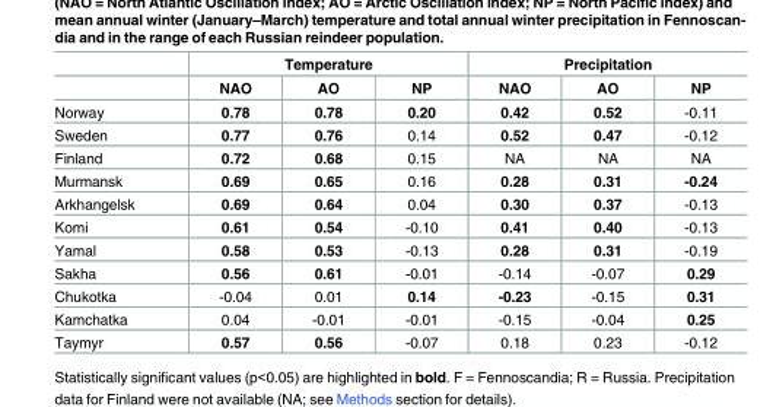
<table><thead><tr><td rowspan="2"></td><td colspan="3">Temperature</td><td colspan="3">Precipitation</td></tr><tr><td>NAO</td><td>AO</td><td>NP</td><td>NAO</td><td>AO</td><td>NP</td></tr></thead><tbody><tr><td>Norway</td><td>0.78</td><td>0.78</td><td>0.20</td><td>0.42</td><td>0.52</td><td>-0.11</td></tr><tr><td>Sweden</td><td>0.77</td><td>0.76</td><td>0.14</td><td>0.52</td><td>0.47</td><td>-0.12</td></tr><tr><td>Finland</td><td>0.72</td><td>0.68</td><td>0.15</td><td>NA</td><td>NA</td><td>NA</td></tr><tr><td>Murmansk</td><td>0.69</td><td>0.65</td><td>0.16</td><td>0.28</td><td>0.31</td><td>-0.24</td></tr><tr><td>Arkhangelsk</td><td>0.69</td><td>0.64</td><td>0.04</td><td>0.30</td><td>0.37</td><td>-0.13</td></tr><tr><td>Komi</td><td>0.61</td><td>0.54</td><td>-0.10</td><td>0.41</td><td>0.40</td><td>-0.13</td></tr><tr><td>Yamal</td><td>0.58</td><td>0.53</td><td>-0.13</td><td>0.28</td><td>0.31</td><td>-0.19</td></tr><tr><td>Sakha</td><td>0.56</td><td>0.61</td><td>-0.01</td><td>-0.14</td><td>-0.07</td><td>0.29</td></tr><tr><td>Chukotka</td><td>-0.04</td><td>0.01</td><td>0.14</td><td>-0.23</td><td>-0.15</td><td>0.31</td></tr><tr><td>Kamchatka</td><td>0.04</td><td>-0.01</td><td>-0.01</td><td>-0.15</td><td>-0.04</td><td>0.25</td></tr><tr><td>Taymyr</td><td>0.57</td><td>0.56</td><td>-0.07</td><td>0.18</td><td>0.23</td><td>-0.12</td></tr></tbody></table>